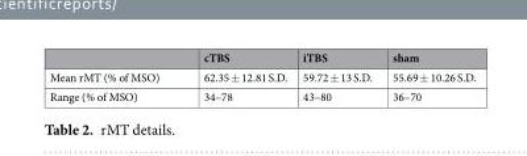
<table><thead><tr><td></td><td>cTBS</td><td>iTBS</td><td>sham</td></tr></thead><tbody><tr><td>Mean rMT (% of MSO)</td><td>62.35 ± 12.81 S.D.</td><td>59.72 ± 13 S.D.</td><td>55.69 ± 10.26 S.D.</td></tr><tr><td>Range (% of MSO)</td><td>34–78</td><td>43–80</td><td>36–70</td></tr></tbody></table>